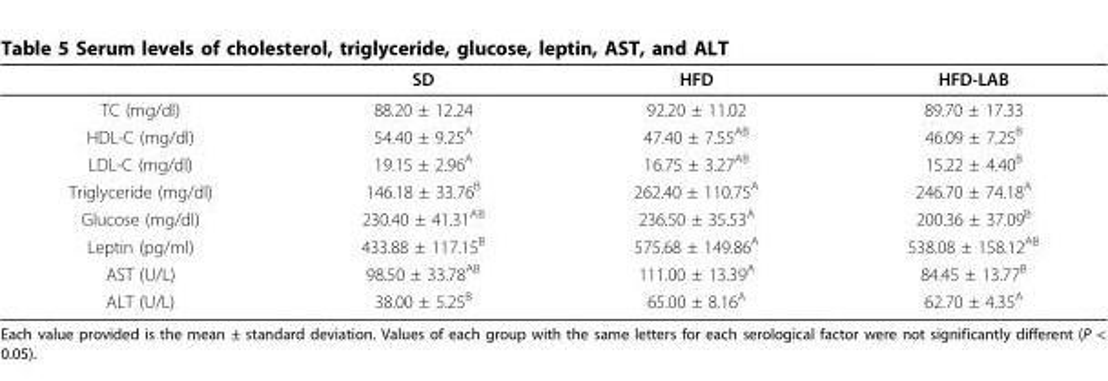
<table><thead><tr><td></td><td>SD</td><td>HFD</td><td>HFD-LAB</td></tr></thead><tbody><tr><td>TC (mg/dl)</td><td>88.20 ± 12.24</td><td>92.20 ± 11.02</td><td>89.70 ± 17.33</td></tr><tr><td>HDL-C (mg/dl)</td><td>54.40 ± 9.25<sup>A</sup></td><td>47.40 ± 7.55<sup>AB</sup></td><td>46.09 ± 7.25<sup>B</sup></td></tr><tr><td>LDL-C (mg/dl)</td><td>19.15 ± 2.96<sup>A</sup></td><td>16.75 ± 3.27<sup>AB</sup></td><td>15.22 ± 4.40<sup>B</sup></td></tr><tr><td>Triglyceride (mg/dl)</td><td>146.18 ± 33.76<sup>B</sup></td><td>262.40 ± 110.75<sup>A</sup></td><td>246.70 ± 74.18<sup>A</sup></td></tr><tr><td>Glucose (mg/dl)</td><td>230.40 ± 41.31<sup>AB</sup></td><td>236.50 ± 35.53<sup>A</sup></td><td>200.36 ± 37.09<sup>B</sup></td></tr><tr><td>Leptin (pg/ml)</td><td>433.88 ± 117.15<sup>B</sup></td><td>575.68 ± 149.86<sup>A</sup></td><td>538.08 ± 158.12<sup>AB</sup></td></tr><tr><td>AST (U/L)</td><td>98.50 ± 33.78<sup>AB</sup></td><td>111.00 ± 13.39<sup>A</sup></td><td>84.45 ± 13.77<sup>B</sup></td></tr><tr><td>ALT (U/L)</td><td>38.00 ± 5.25<sup>B</sup></td><td>65.00 ± 8.16<sup>A</sup></td><td>62.70 ± 4.35<sup>A</sup></td></tr></tbody></table>